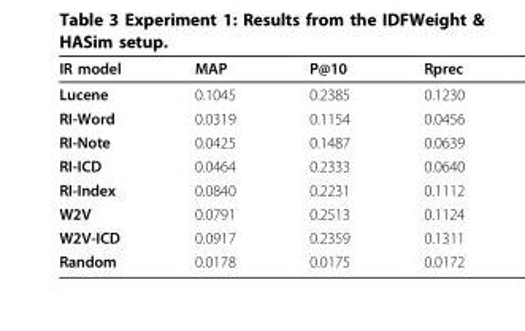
<table><thead><tr><td>IR model</td><td>MAP</td><td>P@10</td><td>Rprec</td></tr></thead><tbody><tr><td>Lucene</td><td>0.1045</td><td>0.2385</td><td>0.1230</td></tr><tr><td>RI-Word</td><td>0.0319</td><td>0.1154</td><td>0.0456</td></tr><tr><td>RI-Note</td><td>0.0425</td><td>0.1487</td><td>0.0639</td></tr><tr><td>RI-ICD</td><td>0.0464</td><td>0.2333</td><td>0.0640</td></tr><tr><td>RI-Index</td><td>0.0840</td><td>0.2231</td><td>0.1112</td></tr><tr><td>W2V</td><td>0.0791</td><td>0.2513</td><td>0.1124</td></tr><tr><td>W2V-ICD</td><td>0.0917</td><td>0.2359</td><td>0.1311</td></tr><tr><td>Random</td><td>0.0178</td><td>0.0175</td><td>0.0172</td></tr></tbody></table>